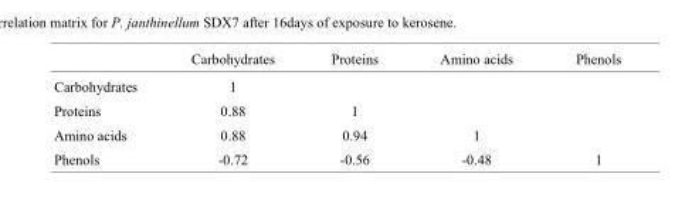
<table><thead><tr><td></td><td>Carbohydrates</td><td>Proteins</td><td>Amino acids</td><td>Phenols</td></tr></thead><tbody><tr><td>Carbohydrates</td><td>1</td><td></td><td></td><td></td></tr><tr><td>Proteins</td><td>0.88</td><td>1</td><td></td><td></td></tr><tr><td>Amino acids</td><td>0.88</td><td>0.94</td><td>1</td><td></td></tr><tr><td>Phenols</td><td>-0.72</td><td>-0.56</td><td>-0.48</td><td>1</td></tr></tbody></table>